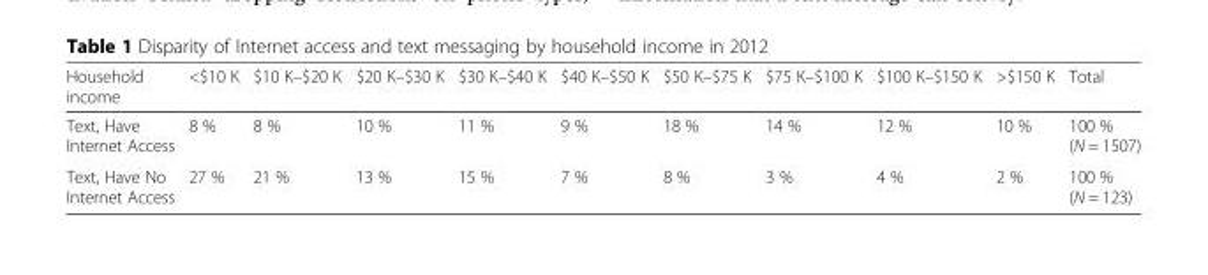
<table><thead><tr><td>Household income</td><td>&lt;$10 K</td><td>$10 K–$20 K</td><td>$20 K–$30 K</td><td>$30 K–$40 K</td><td>$40 K–$50 K</td><td>$50 K–$75 K</td><td>$75 K–$100 K</td><td>$100 K–$150 K</td><td>&gt;$150 K</td><td>Total</td></tr></thead><tbody><tr><td>Text, Have Internet Access</td><td>8 %</td><td>8 %</td><td>10 %</td><td>11 %</td><td>9 %</td><td>18 %</td><td>14 %</td><td>12 %</td><td>10 %</td><td>100 % (N = 1507)</td></tr><tr><td>Text, Have No Internet Access</td><td>27 %</td><td>21 %</td><td>13 %</td><td>15 %</td><td>7 %</td><td>8 %</td><td>3 %</td><td>4 %</td><td>2 %</td><td>100 % (N = 123)</td></tr></tbody></table>